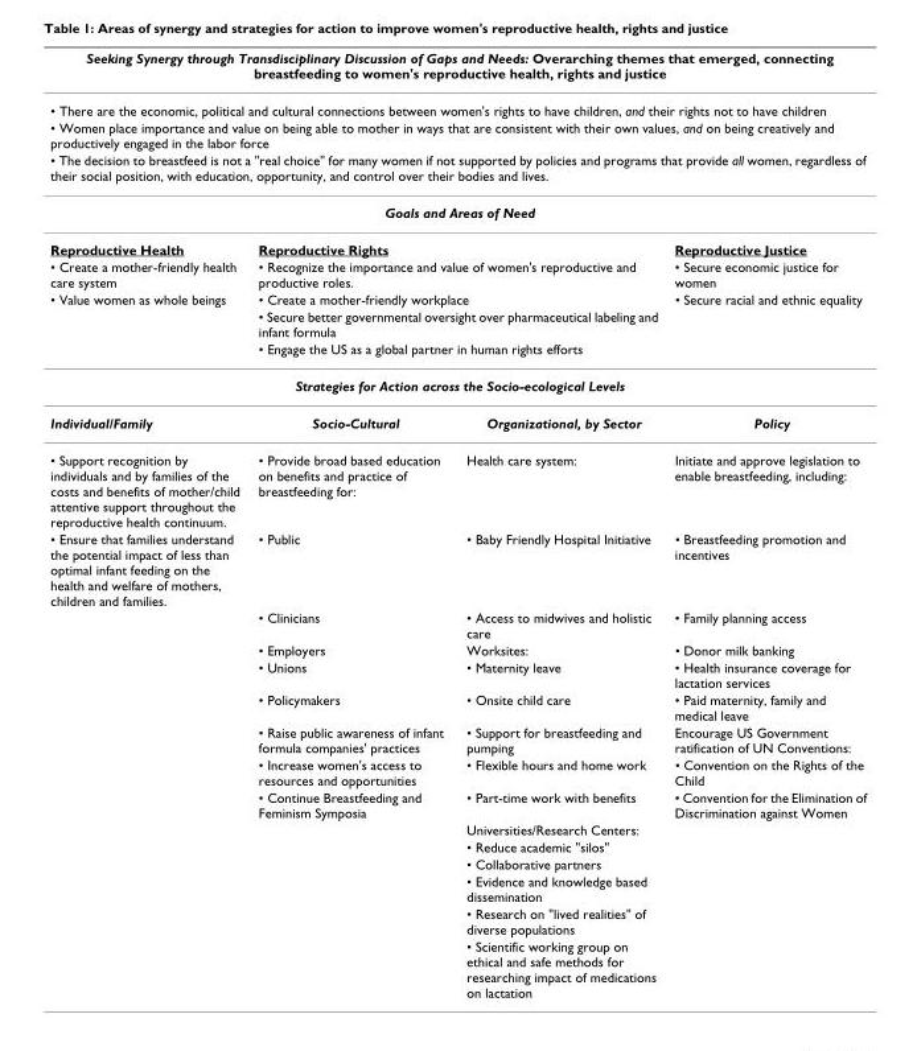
<table><thead><tr><td colspan="4">Seeking Synergy through Transdisciplinary Discussion of Gaps and Needs: Overarching themes that emerged, connecting breastfeeding to women&#x27;s reproductive health, rights and justice</td></tr></thead><tbody><tr><td colspan="4">• There are the economic, political and cultural connections between women&#x27;s rights to have children, and their rights not to have children</td></tr><tr><td colspan="4">• Women place importance and value on being able to mother in ways that are consistent with their own values, and on being creatively and productively engaged in the labor force</td></tr><tr><td colspan="4">• The decision to breastfeed is not a &quot;real choice&quot; for many women if not supported by policies and programs that provide all women, regardless of their social position, with education, opportunity, and control over their bodies and lives.</td></tr><tr><td colspan="4">Goals and Areas of Need</td></tr><tr><td>Reproductive Health</td><td colspan="2">Reproductive Rights</td><td>Reproductive Justice</td></tr><tr><td>• Create a mother-friendly health care system</td><td colspan="2">• Recognize the importance and value of women&#x27;s reproductive and productive roles.</td><td>• Secure economic justice for women</td></tr><tr><td rowspan="3">• Value women as whole beings</td><td colspan="2">• Create a mother-friendly workplace</td><td>• Secure racial and ethnic equality</td></tr><tr><td colspan="2">• Secure better governmental oversight over pharmaceutical labeling and infant formula</td><td></td></tr><tr><td colspan="2">• Engage the US as a global partner in human rights efforts</td><td></td></tr><tr><td colspan="4">Strategies for Action across the Socio-ecological Levels</td></tr><tr><td>Individual/Family</td><td>Socio-Cultural</td><td>Organizational, by Sector</td><td>Policy</td></tr><tr><td>• Support recognition by individuals and by families of the costs and benefits of mother/child attentive support throughout the reproductive health continuum.</td><td>• Provide broad based education on benefits and practice of breastfeeding for:</td><td>Health care system:</td><td>Initiate and approve legislation to enable breastfeeding, including:</td></tr><tr><td rowspan="14">• Ensure that families understand the potential impact of less than optimal infant feeding on the health and welfare of mothers, children and families.</td><td>• Public</td><td>• Baby Friendly Hospital Initiative</td><td>• Breastfeeding promotion and incentives</td></tr><tr><td>• Clinicians</td><td>• Access to midwives and holistic care</td><td>• Family planning access</td></tr><tr><td>• Employers</td><td>Worksites:</td><td>• Donor milk banking</td></tr><tr><td>• Unions</td><td>• Maternity leave</td><td>• Health insurance coverage for lactation services</td></tr><tr><td>• Policymakers</td><td>• Onsite child care</td><td>• Paid maternity, family and medical leave</td></tr><tr><td>• Raise public awareness of infant formula companies&#x27; practices</td><td>• Support for breastfeeding and pumping</td><td>Encourage US Government ratification of UN Conventions:</td></tr><tr><td>• Increase women&#x27;s access to resources and opportunities</td><td>• Flexible hours and home work</td><td>• Convention on the Rights of the Child</td></tr><tr><td>• Continue Breastfeeding and Feminism Symposia</td><td>• Part-time work with benefits</td><td>• Convention for the Elimination of Discrimination against Women</td></tr><tr><td></td><td>Universities/Research Centers:</td><td></td></tr><tr><td></td><td>• Reduce academic &quot;silos&quot;</td><td></td></tr><tr><td></td><td>• Collaborative partners</td><td></td></tr><tr><td></td><td>• Evidence and knowledge based dissemination</td><td></td></tr><tr><td></td><td>• Research on &quot;lived realities&quot; of diverse populations</td><td></td></tr><tr><td></td><td>• Scientific working group on ethical and safe methods for researching impact of medications on lactation</td><td></td></tr></tbody></table>